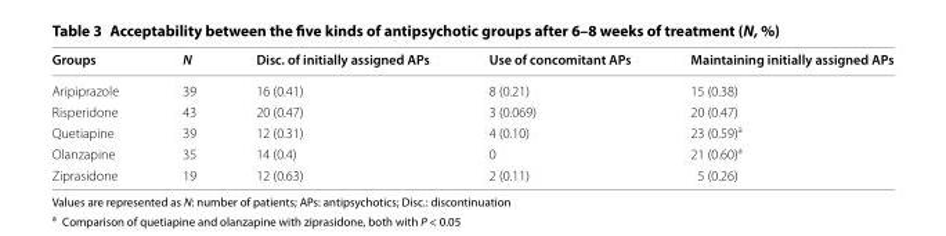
<table><thead><tr><td>Groups</td><td>N</td><td>Disc. of initially assigned APs</td><td>Use of concomitant APs</td><td>Maintaining initially assigned APs</td></tr></thead><tbody><tr><td>Aripiprazole</td><td>39</td><td>16 (0.41)</td><td>8 (0.21)</td><td>15 (0.38)</td></tr><tr><td>Risperidone</td><td>43</td><td>20 (0.47)</td><td>3 (0.069)</td><td>20 (0.47)</td></tr><tr><td>Quetiapine</td><td>39</td><td>12 (0.31)</td><td>4 (0.10)</td><td>23 (0.59)<sup>a</sup></td></tr><tr><td>Olanzapine</td><td>35</td><td>14 (0.4)</td><td>0</td><td>21 (0.60)<sup>a</sup></td></tr><tr><td>Ziprasidone</td><td>19</td><td>12 (0.63)</td><td>2 (0.11)</td><td>5 (0.26)</td></tr></tbody></table>